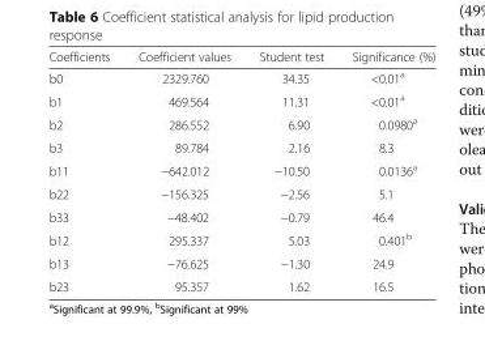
<table><thead><tr><td>Coefficients</td><td>Coefficient values</td><td>Student test</td><td>Significance (%)</td></tr></thead><tbody><tr><td>b0</td><td>2329.760</td><td>34.35</td><td>&lt;0.01<sup>a</sup></td></tr><tr><td>b1</td><td>469.564</td><td>11.31</td><td>&lt;0.01<sup>a</sup></td></tr><tr><td>b2</td><td>286.552</td><td>6.90</td><td>0.0980<sup>a</sup></td></tr><tr><td>b3</td><td>89.784</td><td>2.16</td><td>8.3</td></tr><tr><td>b11</td><td>−642.012</td><td>−10.50</td><td>0.0136<sup>a</sup></td></tr><tr><td>b22</td><td>−156.325</td><td>−2.56</td><td>5.1</td></tr><tr><td>b33</td><td>−48.402</td><td>−0.79</td><td>46.4</td></tr><tr><td>b12</td><td>295.337</td><td>5.03</td><td>0.401<sup>b</sup></td></tr><tr><td>b13</td><td>−76.625</td><td>−1.30</td><td>24.9</td></tr><tr><td>b23</td><td>95.357</td><td>1.62</td><td>16.5</td></tr></tbody></table>